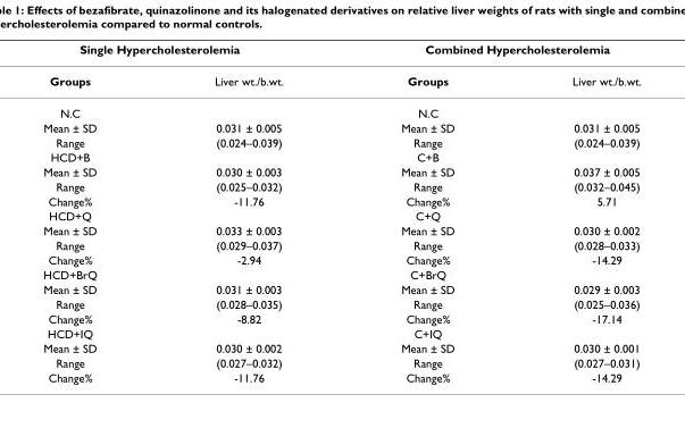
<table><thead><tr><td colspan="2">Single Hypercholesterolemia</td><td colspan="2">Combined Hypercholesterolemia</td></tr><tr><td>Groups</td><td>Liver wt./b.wt.</td><td>Groups</td><td>Liver wt./b.wt.</td></tr></thead><tbody><tr><td>N.C</td><td></td><td>N.C</td><td></td></tr><tr><td>Mean ± SD</td><td>0.031 ± 0.005</td><td>Mean ± SD</td><td>0.031 ± 0.005</td></tr><tr><td>Range</td><td>(0.024–0.039)</td><td>Range</td><td>(0.024–0.039)</td></tr><tr><td>HCD+B</td><td></td><td>C+B</td><td></td></tr><tr><td>Mean ± SD</td><td>0.030 ± 0.003</td><td>Mean ± SD</td><td>0.037 ± 0.005</td></tr><tr><td>Range</td><td>(0.025–0.032)</td><td>Range</td><td>(0.032–0.045)</td></tr><tr><td>Change%</td><td>-11.76</td><td>Change%</td><td>5.71</td></tr><tr><td>HCD+Q</td><td></td><td>C+Q</td><td></td></tr><tr><td>Mean ± SD</td><td>0.033 ± 0.003</td><td>Mean ± SD</td><td>0.030 ± 0.002</td></tr><tr><td>Range</td><td>(0.029–0.037)</td><td>Range</td><td>(0.028–0.033)</td></tr><tr><td>Change%</td><td>-2.94</td><td>Change%</td><td>-14.29</td></tr><tr><td>HCD+BrQ</td><td></td><td>C+BrQ</td><td></td></tr><tr><td>Mean ± SD</td><td>0.031 ± 0.003</td><td>Mean ± SD</td><td>0.029 ± 0.003</td></tr><tr><td>Range</td><td>(0.028–0.035)</td><td>Range</td><td>(0.025–0.036)</td></tr><tr><td>Change%</td><td>-8.82</td><td>Change%</td><td>-17.14</td></tr><tr><td>HCD+IQ</td><td></td><td>C+IQ</td><td></td></tr><tr><td>Mean ± SD</td><td>0.030 ± 0.002</td><td>Mean ± SD</td><td>0.030 ± 0.001</td></tr><tr><td>Range</td><td>(0.027–0.032)</td><td>Range</td><td>(0.027–0.031)</td></tr><tr><td>Change%</td><td>-11.76</td><td>Change%</td><td>-14.29</td></tr></tbody></table>